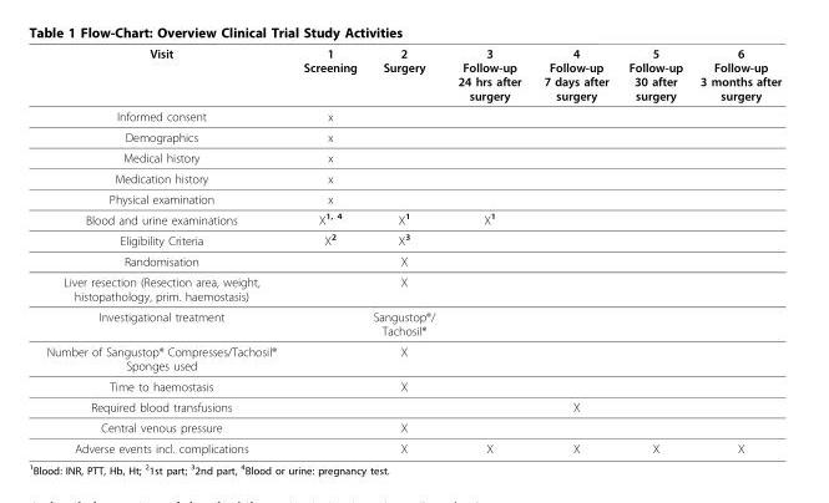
<table><thead><tr><td>Visit</td><td>1 Screening</td><td>2 Surgery</td><td>3 Follow-up 24 hrs after surgery</td><td>4 Follow-up 7 days after surgery</td><td>5 Follow-up 30 after surgery</td><td>6 Follow-up 3 months after surgery</td></tr></thead><tbody><tr><td>Informed consent</td><td>x</td><td></td><td></td><td></td><td></td><td></td></tr><tr><td>Demographics</td><td>x</td><td></td><td></td><td></td><td></td><td></td></tr><tr><td>Medical history</td><td>x</td><td></td><td></td><td></td><td></td><td></td></tr><tr><td>Medication history</td><td>x</td><td></td><td></td><td></td><td></td><td></td></tr><tr><td>Physical examination</td><td>x</td><td></td><td></td><td></td><td></td><td></td></tr><tr><td>Blood and urine examinations</td><td>X<sup>1, 4</sup></td><td>X<sup>1</sup></td><td>X<sup>1</sup></td><td></td><td></td><td></td></tr><tr><td>Eligibility Criteria</td><td>X<sup>2</sup></td><td>X<sup>3</sup></td><td></td><td></td><td></td><td></td></tr><tr><td>Randomisation</td><td></td><td>X</td><td></td><td></td><td></td><td></td></tr><tr><td>Liver resection (Resection area, weight, histopathology, prim. haemostasis)</td><td></td><td>X</td><td></td><td></td><td></td><td></td></tr><tr><td>Investigational treatment</td><td></td><td>Sangustop<sup>®</sup>/ Tachosil<sup>®</sup></td><td></td><td></td><td></td><td></td></tr><tr><td>Number of Sangustop<sup>®</sup> Compresses/Tachosil<sup>®</sup> Sponges used</td><td></td><td>X</td><td></td><td></td><td></td><td></td></tr><tr><td>Time to haemostasis</td><td></td><td>X</td><td></td><td></td><td></td><td></td></tr><tr><td>Required blood transfusions</td><td></td><td></td><td></td><td>X</td><td></td><td></td></tr><tr><td>Central venous pressure</td><td></td><td>X</td><td></td><td></td><td></td><td></td></tr><tr><td>Adverse events incl. complications</td><td></td><td>X</td><td>X</td><td>X</td><td>X</td><td>X</td></tr></tbody></table>